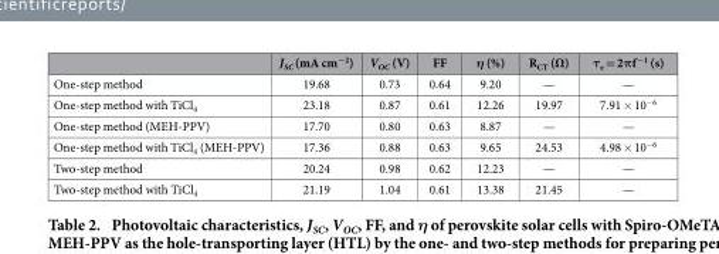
<table><thead><tr><td></td><td>J<sub>SC</sub> (mA cm<sup>−2</sup>)</td><td>V<sub>OC</sub> (V)</td><td>FF</td><td>η (%)</td><td>R<sub>CT</sub> (Ω)</td><td>τ<sub>e</sub> = 2πf<sup>−1</sup> (s)</td></tr></thead><tbody><tr><td>One-step method</td><td>19.68</td><td>0.73</td><td>0.64</td><td>9.20</td><td>—</td><td>—</td></tr><tr><td>One-step method with TiCl<sub>4</sub></td><td>23.18</td><td>0.87</td><td>0.61</td><td>12.26</td><td>19.97</td><td>7.91 × 10<sup>−6</sup></td></tr><tr><td>One-step method (MEH-PPV)</td><td>17.70</td><td>0.80</td><td>0.63</td><td>8.87</td><td>—</td><td>—</td></tr><tr><td>One-step method with TiCl<sub>4</sub> (MEH-PPV)</td><td>17.36</td><td>0.88</td><td>0.63</td><td>9.65</td><td>24.53</td><td>4.98 × 10<sup>−6</sup></td></tr><tr><td>Two-step method</td><td>20.24</td><td>0.98</td><td>0.62</td><td>12.23</td><td>—</td><td>—</td></tr><tr><td>Two-step method with TiCl<sub>4</sub></td><td>21.19</td><td>1.04</td><td>0.61</td><td>13.38</td><td>21.45</td><td>—</td></tr></tbody></table>